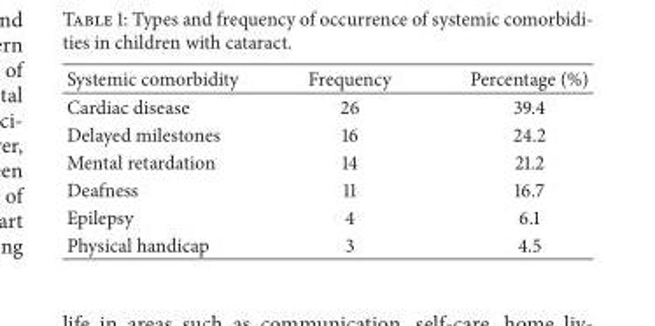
<table><thead><tr><td>Systemic comorbidity</td><td>Frequency</td><td>Percentage (%)</td></tr></thead><tbody><tr><td>Cardiac disease</td><td>26</td><td>39.4</td></tr><tr><td>Delayed milestones</td><td>16</td><td>24.2</td></tr><tr><td>Mental retardation</td><td>14</td><td>21.2</td></tr><tr><td>Deafness</td><td>11</td><td>16.7</td></tr><tr><td>Epilepsy</td><td>4</td><td>6.1</td></tr><tr><td>Physical handicap</td><td>3</td><td>4.5</td></tr></tbody></table>